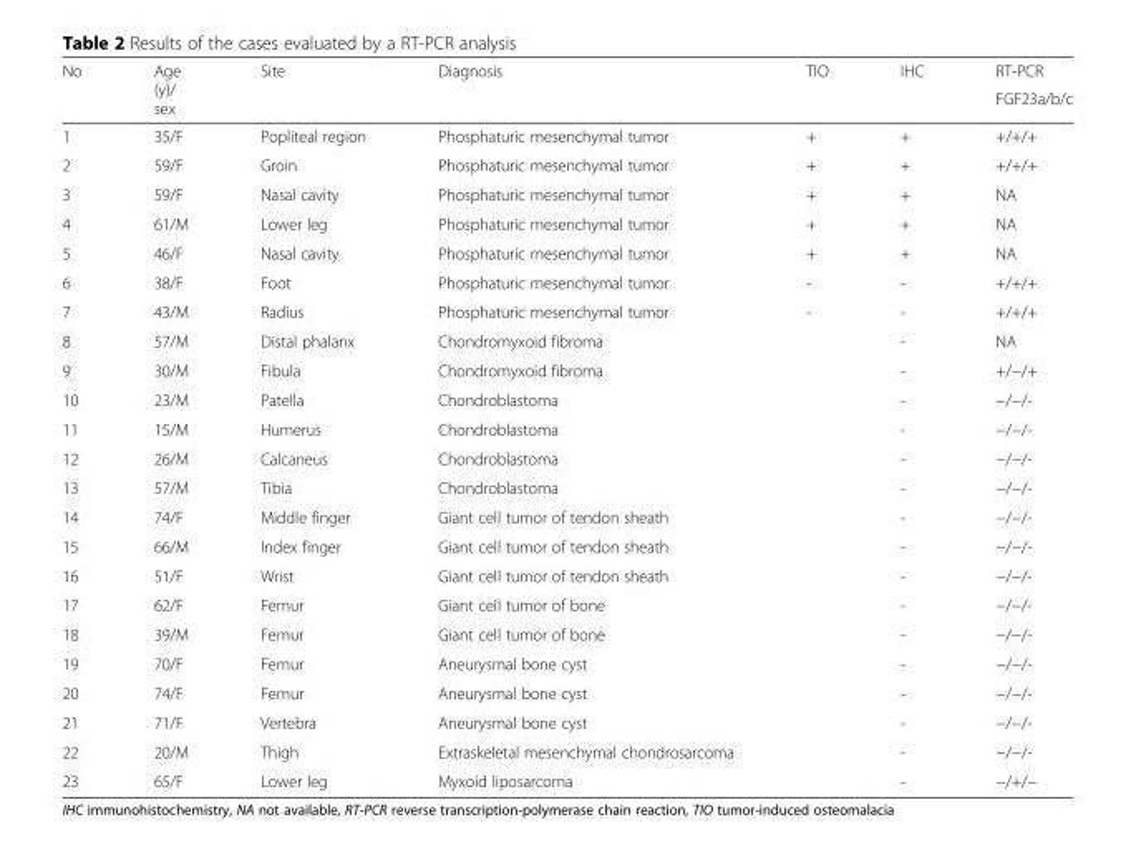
<table><thead><tr><td rowspan="2">No</td><td rowspan="2">Age (y)/ sex</td><td rowspan="2">Site</td><td rowspan="2">Diagnosis</td><td rowspan="2">TIO</td><td rowspan="2">IHC</td><td rowspan="2">RT-PCR FGF23a/b/c</td></tr><tr></tr></thead><tbody><tr><td>1</td><td>35/F</td><td>Popliteal region</td><td>Phosphaturic mesenchymal tumor</td><td>+</td><td>+</td><td>+/+/+</td></tr><tr><td>2</td><td>59/F</td><td>Groin</td><td>Phosphaturic mesenchymal tumor</td><td>+</td><td>+</td><td>+/+/+</td></tr><tr><td>3</td><td>59/F</td><td>Nasal cavity</td><td>Phosphaturic mesenchymal tumor</td><td>+</td><td>+</td><td>NA</td></tr><tr><td>4</td><td>61/M</td><td>Lower leg</td><td>Phosphaturic mesenchymal tumor</td><td>+</td><td>+</td><td>NA</td></tr><tr><td>5</td><td>46/F</td><td>Nasal cavity</td><td>Phosphaturic mesenchymal tumor</td><td>+</td><td>+</td><td>NA</td></tr><tr><td>6</td><td>38/F</td><td>Foot</td><td>Phosphaturic mesenchymal tumor</td><td>-</td><td>-</td><td>+/+/+</td></tr><tr><td>7</td><td>43/M</td><td>Radius</td><td>Phosphaturic mesenchymal tumor</td><td>-</td><td>-</td><td>+/+/+</td></tr><tr><td>8</td><td>57/M</td><td>Distal phalanx</td><td>Chondromyxoid fibroma</td><td></td><td>-</td><td>NA</td></tr><tr><td>9</td><td>30/M</td><td>Fibula</td><td>Chondromyxoid fibroma</td><td></td><td>-</td><td>+/−/+</td></tr><tr><td>10</td><td>23/M</td><td>Patella</td><td>Chondroblastoma</td><td></td><td>-</td><td>−/−/-</td></tr><tr><td>11</td><td>15/M</td><td>Humerus</td><td>Chondroblastoma</td><td></td><td>-</td><td>−/−/-</td></tr><tr><td>12</td><td>26/M</td><td>Calcaneus</td><td>Chondroblastoma</td><td></td><td>-</td><td>−/−/-</td></tr><tr><td>13</td><td>57/M</td><td>Tibia</td><td>Chondroblastoma</td><td></td><td>-</td><td>−/−/-</td></tr><tr><td>14</td><td>74/F</td><td>Middle finger</td><td>Giant cell tumor of tendon sheath</td><td></td><td>-</td><td>−/−/-</td></tr><tr><td>15</td><td>66/M</td><td>Index finger</td><td>Giant cell tumor of tendon sheath</td><td></td><td>-</td><td>−/−/-</td></tr><tr><td>16</td><td>51/F</td><td>Wrist</td><td>Giant cell tumor of tendon sheath</td><td></td><td>-</td><td>−/−/-</td></tr><tr><td>17</td><td>62/F</td><td>Femur</td><td>Giant cell tumor of bone</td><td></td><td>-</td><td>−/−/-</td></tr><tr><td>18</td><td>39/M</td><td>Femur</td><td>Giant cell tumor of bone</td><td></td><td>-</td><td>−/−/-</td></tr><tr><td>19</td><td>70/F</td><td>Femur</td><td>Aneurysmal bone cyst</td><td></td><td>-</td><td>−/−/-</td></tr><tr><td>20</td><td>74/F</td><td>Femur</td><td>Aneurysmal bone cyst</td><td></td><td>-</td><td>−/−/-</td></tr><tr><td>21</td><td>71/F</td><td>Vertebra</td><td>Aneurysmal bone cyst</td><td></td><td>-</td><td>−/−/-</td></tr><tr><td>22</td><td>20/M</td><td>Thigh</td><td>Extraskeletal mesenchymal chondrosarcoma</td><td></td><td>-</td><td>−/−/-</td></tr><tr><td>23</td><td>65/F</td><td>Lower leg</td><td>Myxoid liposarcoma</td><td></td><td>-</td><td>−/+/−</td></tr></tbody></table>